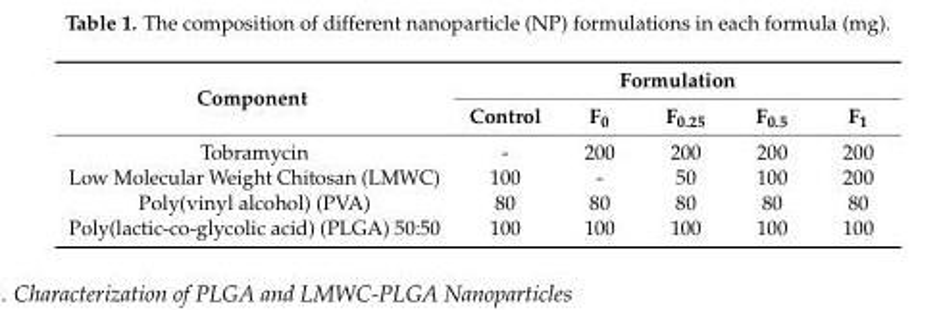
<table><thead><tr><td rowspan="2">Component</td><td colspan="5">Formulation</td></tr><tr><td>Control</td><td>F<sub>0</sub></td><td>F<sub>0.25</sub></td><td>F<sub>0.5</sub></td><td>F<sub>1</sub></td></tr></thead><tbody><tr><td>Tobramycin</td><td>-</td><td>200</td><td>200</td><td>200</td><td>200</td></tr><tr><td>Low Molecular Weight Chitosan (LMWC)</td><td>100</td><td>-</td><td>50</td><td>100</td><td>200</td></tr><tr><td>Poly(vinyl alcohol) (PVA)</td><td>80</td><td>80</td><td>80</td><td>80</td><td>80</td></tr><tr><td>Poly(lactic-co-glycolic acid) (PLGA) 50:50</td><td>100</td><td>100</td><td>100</td><td>100</td><td>100</td></tr></tbody></table>